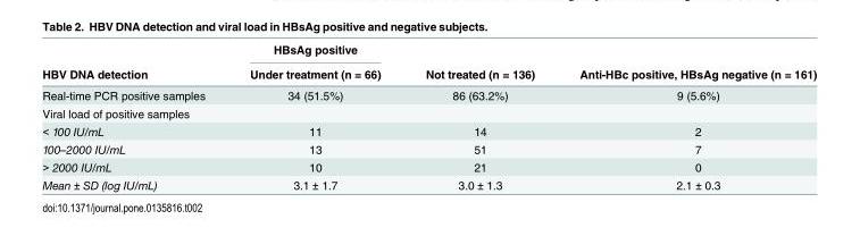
<table><thead><tr><td rowspan="2">HBV DNA detection</td><td rowspan="2">HBsAg positive Under treatment (n = 66)</td><td rowspan="2">Not treated (n = 136)</td><td rowspan="2">Anti-HBc positive, HBsAg negative (n = 161)</td></tr><tr></tr></thead><tbody><tr><td>Real-time PCR positive samples</td><td>34 (51.5%)</td><td>86 (63.2%)</td><td>9 (5.6%)</td></tr><tr><td colspan="4">Viral load of positive samples</td></tr><tr><td>&lt; 100 IU/mL</td><td>11</td><td>14</td><td>2</td></tr><tr><td>100–2000 IU/mL</td><td>13</td><td>51</td><td>7</td></tr><tr><td>&gt; 2000 IU/mL</td><td>10</td><td>21</td><td>0</td></tr><tr><td>Mean ± SD (log IU/mL)</td><td>3.1 ± 1.7</td><td>3.0 ± 1.3</td><td>2.1 ± 0.3</td></tr></tbody></table>